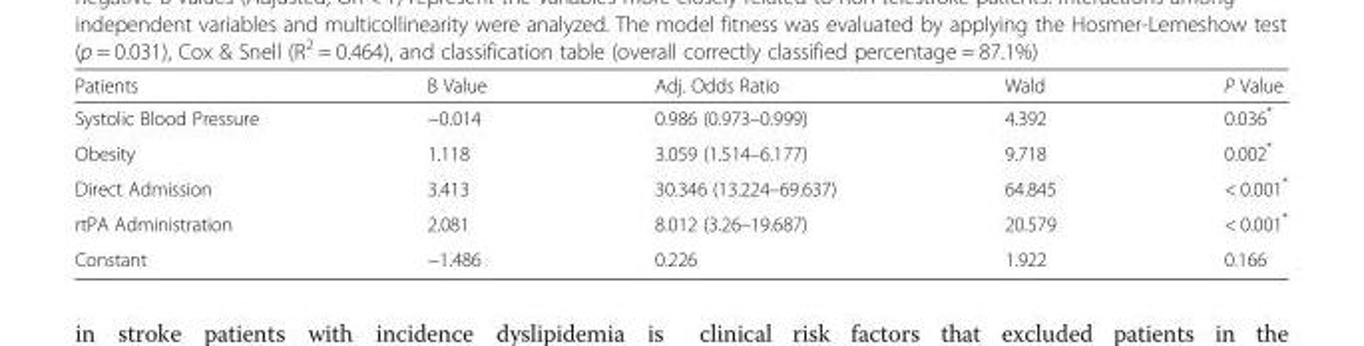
<table><thead><tr><td>Patients</td><td>B Value</td><td>Adj. Odds Ratio</td><td>Wald</td><td>P Value</td></tr></thead><tbody><tr><td>Systolic Blood Pressure</td><td>−0.014</td><td>0.986 (0.973–0.999)</td><td>4.392</td><td>0.036*</td></tr><tr><td>Obesity</td><td>1.118</td><td>3.059 (1.514–6.177)</td><td>9.718</td><td>0.002*</td></tr><tr><td>Direct Admission</td><td>3.413</td><td>30.346 (13.224–69.637)</td><td>64.845</td><td>&lt; 0.001*</td></tr><tr><td>rtPA Administration</td><td>2.081</td><td>8.012 (3.26–19.687)</td><td>20.579</td><td>&lt; 0.001*</td></tr><tr><td>Constant</td><td>−1.486</td><td>0.226</td><td>1.922</td><td>0.166</td></tr></tbody></table>